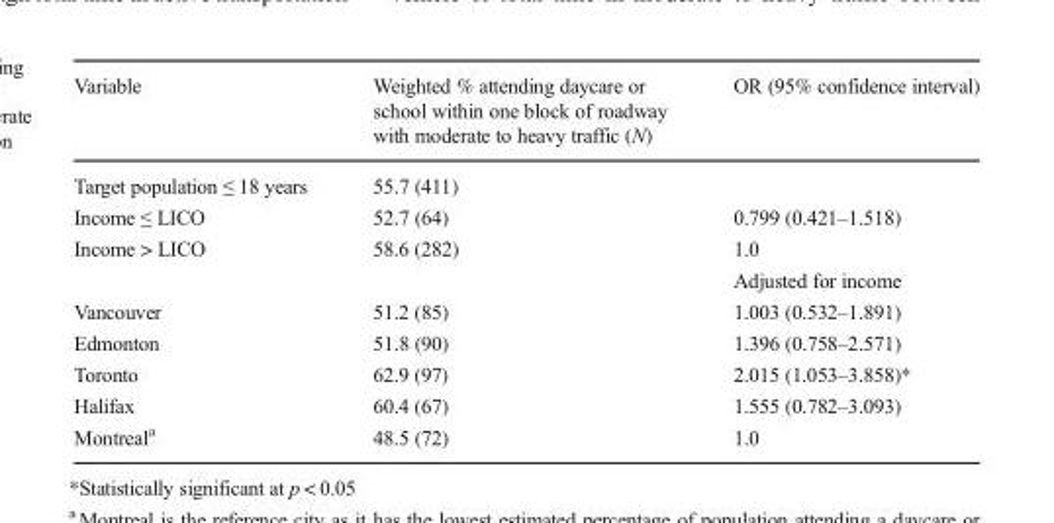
<table><thead><tr><td>Variable</td><td>Weighted % attending daycare or school within one block of roadway with moderate to heavy traffic (N)</td><td>OR (95% confidence interval)</td></tr></thead><tbody><tr><td>Target population ≤ 18 years</td><td>55.7 (411)</td><td></td></tr><tr><td>Income ≤ LICO</td><td>52.7 (64)</td><td>0.799 (0.421–1.518)</td></tr><tr><td rowspan="2">Income &gt; LICO</td><td>58.6 (282)</td><td>1.0</td></tr><tr><td></td><td>Adjusted for income</td></tr><tr><td>Vancouver</td><td>51.2 (85)</td><td>1.003 (0.532–1.891)</td></tr><tr><td>Edmonton</td><td>51.8 (90)</td><td>1.396 (0.758–2.571)</td></tr><tr><td>Toronto</td><td>62.9 (97)</td><td>2.015 (1.053–3.858)*</td></tr><tr><td>Halifax</td><td>60.4 (67)</td><td>1.555 (0.782–3.093)</td></tr><tr><td>Montreal<sup>a</sup></td><td>48.5 (72)</td><td>1.0</td></tr></tbody></table>